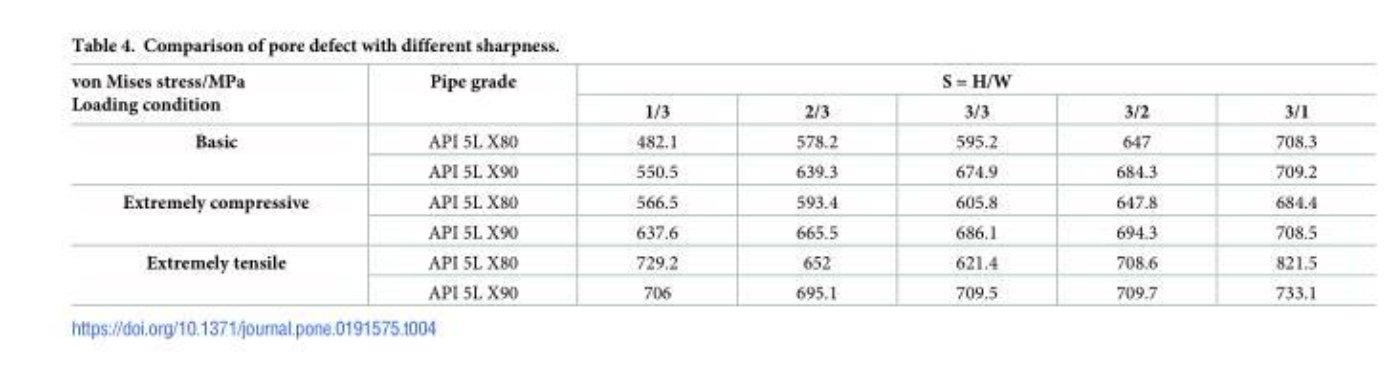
<table><thead><tr><td rowspan="2">von Mises stress/MPa Loading condition</td><td rowspan="2">Pipe grade</td><td colspan="5">S = H/W</td></tr><tr><td>1/3</td><td>2/3</td><td>3/3</td><td>3/2</td><td>3/1</td></tr></thead><tbody><tr><td rowspan="2">Basic</td><td>API 5L X80</td><td>482.1</td><td>578.2</td><td>595.2</td><td>647</td><td>708.3</td></tr><tr><td>API 5L X90</td><td>550.5</td><td>639.3</td><td>674.9</td><td>684.3</td><td>709.2</td></tr><tr><td rowspan="2">Extremely compressive</td><td>API 5L X80</td><td>566.5</td><td>593.4</td><td>605.8</td><td>647.8</td><td>684.4</td></tr><tr><td>API 5L X90</td><td>637.6</td><td>665.5</td><td>686.1</td><td>694.3</td><td>708.5</td></tr><tr><td rowspan="2">Extremely tensile</td><td>API 5L X80</td><td>729.2</td><td>652</td><td>621.4</td><td>708.6</td><td>821.5</td></tr><tr><td>API 5L X90</td><td>706</td><td>695.1</td><td>709.5</td><td>709.7</td><td>733.1</td></tr></tbody></table>